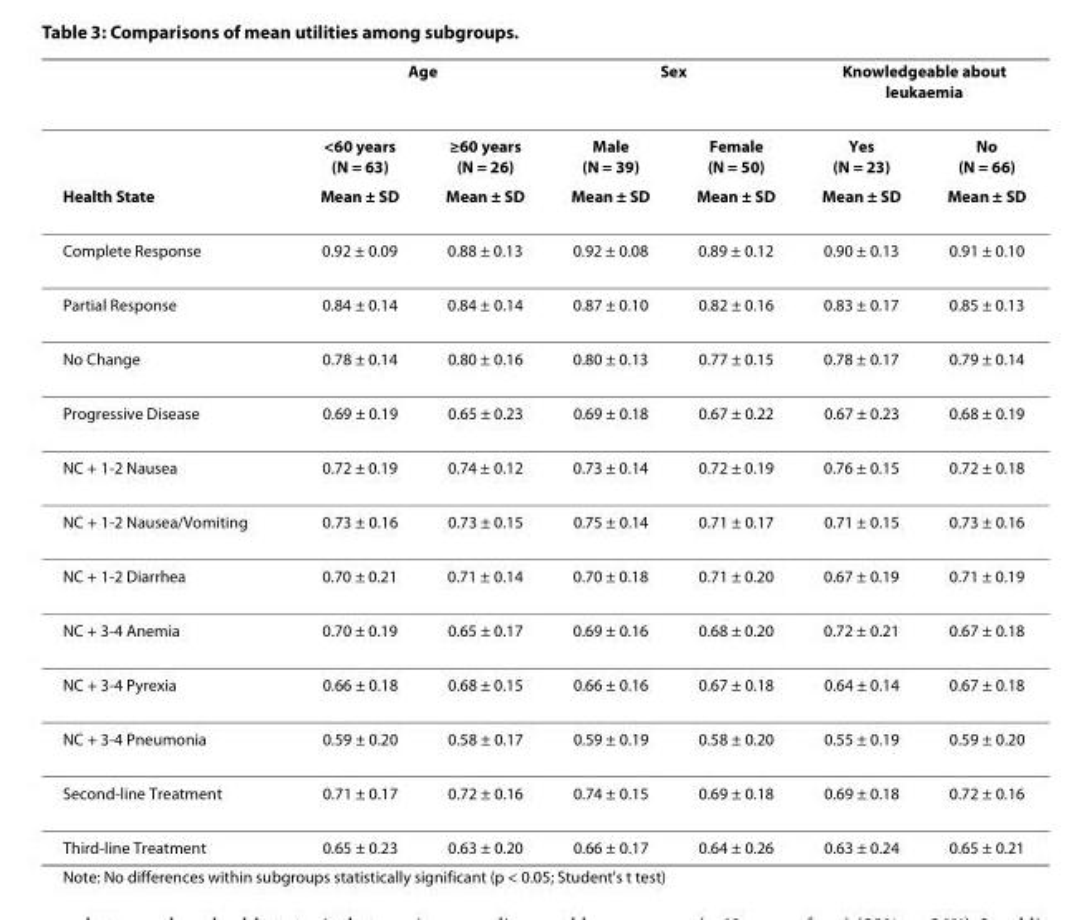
<table><thead><tr><td rowspan="2"></td><td colspan="2">Age</td><td colspan="2">Sex</td><td colspan="2">Knowledgeable about leukaemia</td></tr><tr><td>&lt;60 years (N = 63)</td><td>≥60 years (N = 26)</td><td>Male (N = 39)</td><td>Female (N = 50)</td><td>Yes (N = 23)</td><td>No (N = 66)</td></tr></thead><tbody><tr><td>Health State</td><td>Mean ± SD</td><td>Mean ± SD</td><td>Mean ± SD</td><td>Mean ± SD</td><td>Mean ± SD</td><td>Mean ± SD</td></tr><tr><td>Complete Response</td><td>0.92 ± 0.09</td><td>0.88 ± 0.13</td><td>0.92 ± 0.08</td><td>0.89 ± 0.12</td><td>0.90 ± 0.13</td><td>0.91 ± 0.10</td></tr><tr><td>Partial Response</td><td>0.84 ± 0.14</td><td>0.84 ± 0.14</td><td>0.87 ± 0.10</td><td>0.82 ± 0.16</td><td>0.83 ± 0.17</td><td>0.85 ± 0.13</td></tr><tr><td>No Change</td><td>0.78 ± 0.14</td><td>0.80 ± 0.16</td><td>0.80 ± 0.13</td><td>0.77 ± 0.15</td><td>0.78 ± 0.17</td><td>0.79 ± 0.14</td></tr><tr><td>Progressive Disease</td><td>0.69 ± 0.19</td><td>0.65 ± 0.23</td><td>0.69 ± 0.18</td><td>0.67 ± 0.22</td><td>0.67 ± 0.23</td><td>0.68 ± 0.19</td></tr><tr><td>NC + 1-2 Nausea</td><td>0.72 ± 0.19</td><td>0.74 ± 0.12</td><td>0.73 ± 0.14</td><td>0.72 ± 0.19</td><td>0.76 ± 0.15</td><td>0.72 ± 0.18</td></tr><tr><td>NC + 1-2 Nausea/Vomiting</td><td>0.73 ± 0.16</td><td>0.73 ± 0.15</td><td>0.75 ± 0.14</td><td>0.71 ± 0.17</td><td>0.71 ± 0.15</td><td>0.73 ± 0.16</td></tr><tr><td>NC + 1-2 Diarrhea</td><td>0.70 ± 0.21</td><td>0.71 ± 0.14</td><td>0.70 ± 0.18</td><td>0.71 ± 0.20</td><td>0.67 ± 0.19</td><td>0.71 ± 0.19</td></tr><tr><td>NC + 3-4 Anemia</td><td>0.70 ± 0.19</td><td>0.65 ± 0.17</td><td>0.69 ± 0.16</td><td>0.68 ± 0.20</td><td>0.72 ± 0.21</td><td>0.67 ± 0.18</td></tr><tr><td>NC + 3-4 Pyrexia</td><td>0.66 ± 0.18</td><td>0.68 ± 0.15</td><td>0.66 ± 0.16</td><td>0.67 ± 0.18</td><td>0.64 ± 0.14</td><td>0.67 ± 0.18</td></tr><tr><td>NC + 3-4 Pneumonia</td><td>0.59 ± 0.20</td><td>0.58 ± 0.17</td><td>0.59 ± 0.19</td><td>0.58 ± 0.20</td><td>0.55 ± 0.19</td><td>0.59 ± 0.20</td></tr><tr><td>Second-line Treatment</td><td>0.71 ± 0.17</td><td>0.72 ± 0.16</td><td>0.74 ± 0.15</td><td>0.69 ± 0.18</td><td>0.69 ± 0.18</td><td>0.72 ± 0.16</td></tr><tr><td>Third-line Treatment</td><td>0.65 ± 0.23</td><td>0.63 ± 0.20</td><td>0.66 ± 0.17</td><td>0.64 ± 0.26</td><td>0.63 ± 0.24</td><td>0.65 ± 0.21</td></tr></tbody></table>